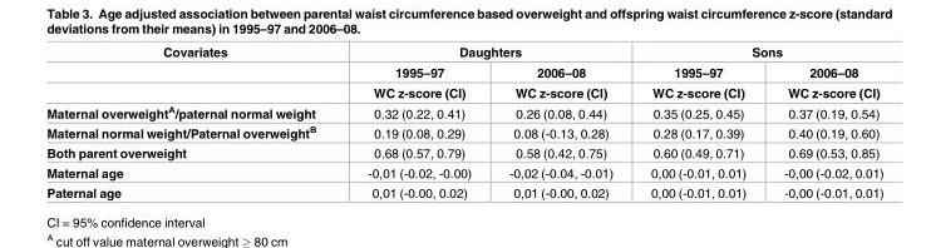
<table><thead><tr><td rowspan="3">Covariates</td><td colspan="2">Daughters</td><td colspan="2">Sons</td></tr><tr><td rowspan="2">1995–97 WC z-score (CI)</td><td rowspan="2">2006–08 WC z-score (CI)</td><td rowspan="2">1995–97 WC z-score (CI)</td><td rowspan="2">2006–08 WC z-score (CI)</td></tr><tr></tr></thead><tbody><tr><td>Maternal overweight<sup>A</sup>/paternal normal weight</td><td>0.32 (0.22, 0.41)</td><td>0.26 (0.08, 0.44)</td><td>0.35 (0.25, 0.45)</td><td>0.37 (0.19, 0.54)</td></tr><tr><td>Maternal normal weight/Paternal overweight<sup>B</sup></td><td>0.19 (0.08, 0.29)</td><td>0.08 (-0.13, 0.28)</td><td>0.28 (0.17, 0.39)</td><td>0.40 (0.19, 0.60)</td></tr><tr><td>Both parent overweight</td><td>0.68 (0.57, 0.79)</td><td>0.58 (0.42, 0.75)</td><td>0.60 (0.49, 0.71)</td><td>0.69 (0.53, 0.85)</td></tr><tr><td>Maternal age</td><td>-0,01 (-0.02, -0.00)</td><td>-0,02 (-0.04, -0.01)</td><td>0,00 (-0.01, 0.01)</td><td>-0,00 (-0.02, 0.01)</td></tr><tr><td>Paternal age</td><td>0,01 (-0.00, 0.02)</td><td>0,01 (-0.00, 0.02)</td><td>0,00 (-0.01, 0.01)</td><td>-0,00 (-0.01, 0.01)</td></tr></tbody></table>